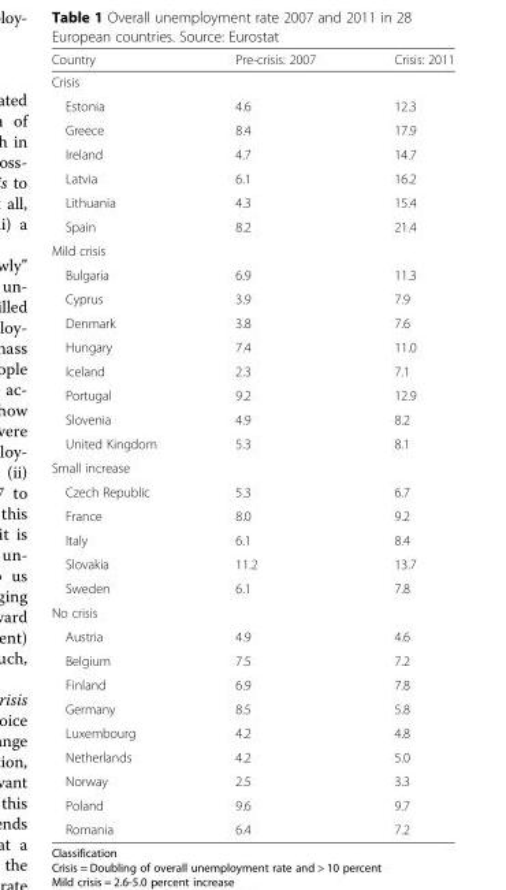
<table><thead><tr><td>Country</td><td>Pre-crisis: 2007</td><td>Crisis: 2011</td></tr></thead><tbody><tr><td colspan="3">Crisis</td></tr><tr><td>Estonia</td><td>4.6</td><td>12.3</td></tr><tr><td>Greece</td><td>8.4</td><td>17.9</td></tr><tr><td>Ireland</td><td>4.7</td><td>14.7</td></tr><tr><td>Latvia</td><td>6.1</td><td>16.2</td></tr><tr><td>Lithuania</td><td>4.3</td><td>15.4</td></tr><tr><td>Spain</td><td>8.2</td><td>21.4</td></tr><tr><td colspan="3">Mild crisis</td></tr><tr><td>Bulgaria</td><td>6.9</td><td>11.3</td></tr><tr><td>Cyprus</td><td>3.9</td><td>7.9</td></tr><tr><td>Denmark</td><td>3.8</td><td>7.6</td></tr><tr><td>Hungary</td><td>7.4</td><td>11.0</td></tr><tr><td>Iceland</td><td>2.3</td><td>7.1</td></tr><tr><td>Portugal</td><td>9.2</td><td>12.9</td></tr><tr><td>Slovenia</td><td>4.9</td><td>8.2</td></tr><tr><td>United Kingdom</td><td>5.3</td><td>8.1</td></tr><tr><td colspan="3">Small increase</td></tr><tr><td>Czech Republic</td><td>5.3</td><td>6.7</td></tr><tr><td>France</td><td>8.0</td><td>9.2</td></tr><tr><td>Italy</td><td>6.1</td><td>8.4</td></tr><tr><td>Slovakia</td><td>11.2</td><td>13.7</td></tr><tr><td>Sweden</td><td>6.1</td><td>7.8</td></tr><tr><td colspan="3">No crisis</td></tr><tr><td>Austria</td><td>4.9</td><td>4.6</td></tr><tr><td>Belgium</td><td>7.5</td><td>7.2</td></tr><tr><td>Finland</td><td>6.9</td><td>7.8</td></tr><tr><td>Germany</td><td>8.5</td><td>5.8</td></tr><tr><td>Luxembourg</td><td>4.2</td><td>4.8</td></tr><tr><td>Netherlands</td><td>4.2</td><td>5.0</td></tr><tr><td>Norway</td><td>2.5</td><td>3.3</td></tr><tr><td>Poland</td><td>9.6</td><td>9.7</td></tr><tr><td>Romania</td><td>6.4</td><td>7.2</td></tr></tbody></table>